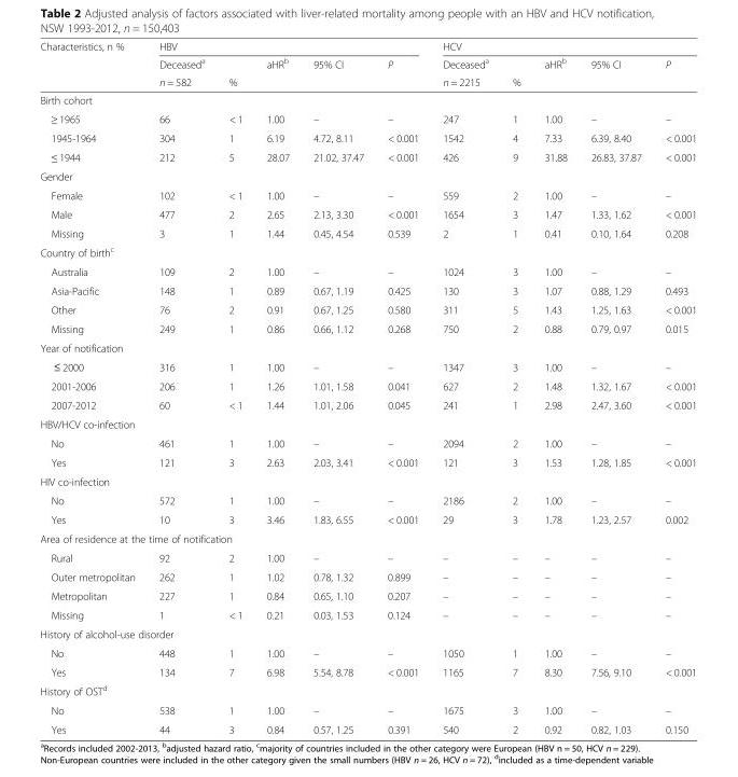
<table><thead><tr><td rowspan="3">Characteristics, n %</td><td colspan="5">HBV</td><td colspan="5">HCV</td></tr><tr><td rowspan="2">Deceased<sup>a</sup> n = 582</td><td rowspan="2">%</td><td rowspan="2">aHR<sup>b</sup></td><td rowspan="2">95% CI</td><td rowspan="2">P</td><td rowspan="2">Deceased<sup>a</sup> n = 2215</td><td rowspan="2">%</td><td rowspan="2">aHR<sup>b</sup></td><td rowspan="2">95% CI</td><td rowspan="2">P</td></tr><tr></tr></thead><tbody><tr><td colspan="11">Birth cohort</td></tr><tr><td>≥ 1965</td><td>66</td><td>&lt; 1</td><td>1.00</td><td>–</td><td>–</td><td>247</td><td>1</td><td>1.00</td><td>–</td><td>–</td></tr><tr><td>1945-1964</td><td>304</td><td>1</td><td>6.19</td><td>4.72, 8.11</td><td>&lt; 0.001</td><td>1542</td><td>4</td><td>7.33</td><td>6.39, 8.40</td><td>&lt; 0.001</td></tr><tr><td>≤ 1944</td><td>212</td><td>5</td><td>28.07</td><td>21.02, 37.47</td><td>&lt; 0.001</td><td>426</td><td>9</td><td>31.88</td><td>26.83, 37.87</td><td>&lt; 0.001</td></tr><tr><td colspan="11">Gender</td></tr><tr><td>Female</td><td>102</td><td>&lt; 1</td><td>1.00</td><td>–</td><td>–</td><td>559</td><td>2</td><td>1.00</td><td>–</td><td>–</td></tr><tr><td>Male</td><td>477</td><td>2</td><td>2.65</td><td>2.13, 3.30</td><td>&lt; 0.001</td><td>1654</td><td>3</td><td>1.47</td><td>1.33, 1.62</td><td>&lt; 0.001</td></tr><tr><td>Missing</td><td>3</td><td>1</td><td>1.44</td><td>0.45, 4.54</td><td>0.539</td><td>2</td><td>1</td><td>0.41</td><td>0.10, 1.64</td><td>0.208</td></tr><tr><td colspan="11">Country of birth<sup>c</sup></td></tr><tr><td>Australia</td><td>109</td><td>2</td><td>1.00</td><td>–</td><td>–</td><td>1024</td><td>3</td><td>1.00</td><td>–</td><td>–</td></tr><tr><td>Asia-Pacific</td><td>148</td><td>1</td><td>0.89</td><td>0.67, 1.19</td><td>0.425</td><td>130</td><td>3</td><td>1.07</td><td>0.88, 1.29</td><td>0.493</td></tr><tr><td>Other</td><td>76</td><td>2</td><td>0.91</td><td>0.67, 1.25</td><td>0.580</td><td>311</td><td>5</td><td>1.43</td><td>1.25, 1.63</td><td>&lt; 0.001</td></tr><tr><td>Missing</td><td>249</td><td>1</td><td>0.86</td><td>0.66, 1.12</td><td>0.268</td><td>750</td><td>2</td><td>0.88</td><td>0.79, 0.97</td><td>0.015</td></tr><tr><td colspan="11">Year of notification</td></tr><tr><td>≤ 2000</td><td>316</td><td>1</td><td>1.00</td><td>–</td><td>–</td><td>1347</td><td>3</td><td>1.00</td><td>–</td><td>–</td></tr><tr><td>2001-2006</td><td>206</td><td>1</td><td>1.26</td><td>1.01, 1.58</td><td>0.041</td><td>627</td><td>2</td><td>1.48</td><td>1.32, 1.67</td><td>&lt; 0.001</td></tr><tr><td>2007-2012</td><td>60</td><td>&lt; 1</td><td>1.44</td><td>1.01, 2.06</td><td>0.045</td><td>241</td><td>1</td><td>2.98</td><td>2.47, 3.60</td><td>&lt; 0.001</td></tr><tr><td colspan="11">HBV/HCV co-infection</td></tr><tr><td>No</td><td>461</td><td>1</td><td>1.00</td><td>–</td><td>–</td><td>2094</td><td>2</td><td>1.00</td><td>–</td><td>–</td></tr><tr><td>Yes</td><td>121</td><td>3</td><td>2.63</td><td>2.03, 3.41</td><td>&lt; 0.001</td><td>121</td><td>3</td><td>1.53</td><td>1.28, 1.85</td><td>&lt; 0.001</td></tr><tr><td colspan="11">HIV co-infection</td></tr><tr><td>No</td><td>572</td><td>1</td><td>1.00</td><td>–</td><td>–</td><td>2186</td><td>2</td><td>1.00</td><td>–</td><td>–</td></tr><tr><td>Yes</td><td>10</td><td>3</td><td>3.46</td><td>1.83, 6.55</td><td>&lt; 0.001</td><td>29</td><td>3</td><td>1.78</td><td>1.23, 2.57</td><td>0.002</td></tr><tr><td colspan="11">Area of residence at the time of notification</td></tr><tr><td>Rural</td><td>92</td><td>2</td><td>1.00</td><td>–</td><td>–</td><td>–</td><td>–</td><td>–</td><td>–</td><td>–</td></tr><tr><td>Outer metropolitan</td><td>262</td><td>1</td><td>1.02</td><td>0.78, 1.32</td><td>0.899</td><td>–</td><td>–</td><td>–</td><td>–</td><td>–</td></tr><tr><td>Metropolitan</td><td>227</td><td>1</td><td>0.84</td><td>0.65, 1.10</td><td>0.207</td><td>–</td><td>–</td><td>–</td><td>–</td><td>–</td></tr><tr><td>Missing</td><td>1</td><td>&lt; 1</td><td>0.21</td><td>0.03, 1.53</td><td>0.124</td><td>–</td><td>–</td><td>–</td><td>–</td><td>–</td></tr><tr><td colspan="11">History of alcohol-use disorder</td></tr><tr><td>No</td><td>448</td><td>1</td><td>1.00</td><td>–</td><td>–</td><td>1050</td><td>1</td><td>1.00</td><td>–</td><td>–</td></tr><tr><td>Yes</td><td>134</td><td>7</td><td>6.98</td><td>5.54, 8.78</td><td>&lt; 0.001</td><td>1165</td><td>7</td><td>8.30</td><td>7.56, 9.10</td><td>&lt; 0.001</td></tr><tr><td colspan="11">History of OST<sup>d</sup></td></tr><tr><td>No</td><td>538</td><td>1</td><td>1.00</td><td>–</td><td>–</td><td>1675</td><td>3</td><td>1.00</td><td>–</td><td>–</td></tr><tr><td>Yes</td><td>44</td><td>3</td><td>0.84</td><td>0.57, 1.25</td><td>0.391</td><td>540</td><td>2</td><td>0.92</td><td>0.82, 1.03</td><td>0.150</td></tr></tbody></table>